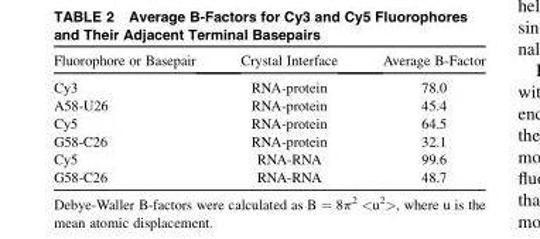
<table><thead><tr><td>Fluorophore or Basepair</td><td>Crystal Interface</td><td>Average B-Factor</td></tr></thead><tbody><tr><td>Cy3</td><td>RNA-protein</td><td>78.0</td></tr><tr><td>A58-U26</td><td>RNA-protein</td><td>45.4</td></tr><tr><td>Cy5</td><td>RNA-protein</td><td>64.5</td></tr><tr><td>G58-C26</td><td>RNA-protein</td><td>32.1</td></tr><tr><td>Cy5</td><td>RNA-RNA</td><td>99.6</td></tr><tr><td>G58-C26</td><td>RNA-RNA</td><td>48.7</td></tr></tbody></table>